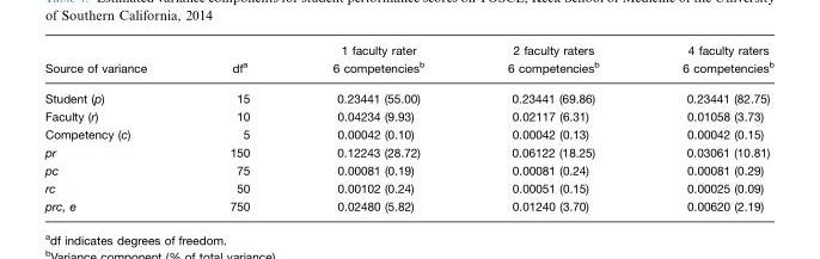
<table><thead><tr><td>Source of variance</td><td>df<sup>a</sup></td><td>1 faculty rater 6 competencies<sup>b</sup></td><td>2 faculty raters 6 competencies<sup>b</sup></td><td>4 faculty raters 6 competencies<sup>b</sup></td></tr></thead><tbody><tr><td>Student (p)</td><td>15</td><td>0.23441 (55.00)</td><td>0.23441 (69.86)</td><td>0.23441 (82.75)</td></tr><tr><td>Faculty (r)</td><td>10</td><td>0.04234 (9.93)</td><td>0.02117 (6.31)</td><td>0.01058 (3.73)</td></tr><tr><td>Competency (c)</td><td>5</td><td>0.00042 (0.10)</td><td>0.00042 (0.13)</td><td>0.00042 (0.15)</td></tr><tr><td>pr</td><td>150</td><td>0.12243 (28.72)</td><td>0.06122 (18.25)</td><td>0.03061 (10.81)</td></tr><tr><td>pc</td><td>75</td><td>0.00081 (0.19)</td><td>0.00081 (0.24)</td><td>0.00081 (0.29)</td></tr><tr><td>rc</td><td>50</td><td>0.00102 (0.24)</td><td>0.00051 (0.15)</td><td>0.00025 (0.09)</td></tr><tr><td>prc, e</td><td>750</td><td>0.02480 (5.82)</td><td>0.01240 (3.70)</td><td>0.00620 (2.19)</td></tr></tbody></table>